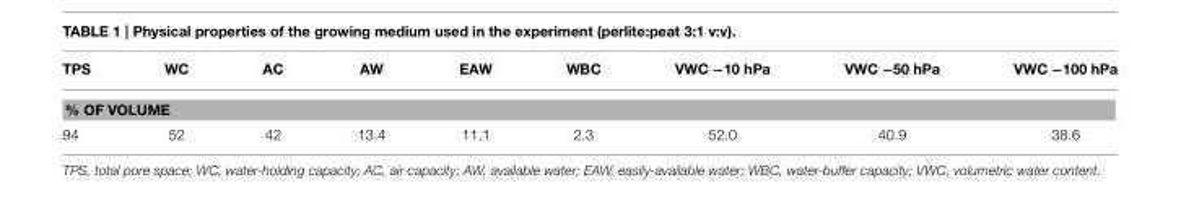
<table><thead><tr><td>TPS</td><td>WC</td><td>AC</td><td>AW</td><td>EAW</td><td>WBC</td><td>VWC −10 hPa</td><td>VWC −50 hPa</td><td>VWC −100 hPa</td></tr></thead><tbody><tr><td colspan="9">% OF VOLUME</td></tr><tr><td>94</td><td>52</td><td>42</td><td>13.4</td><td>11.1</td><td>2.3</td><td>52.0</td><td>40.9</td><td>38.6</td></tr></tbody></table>